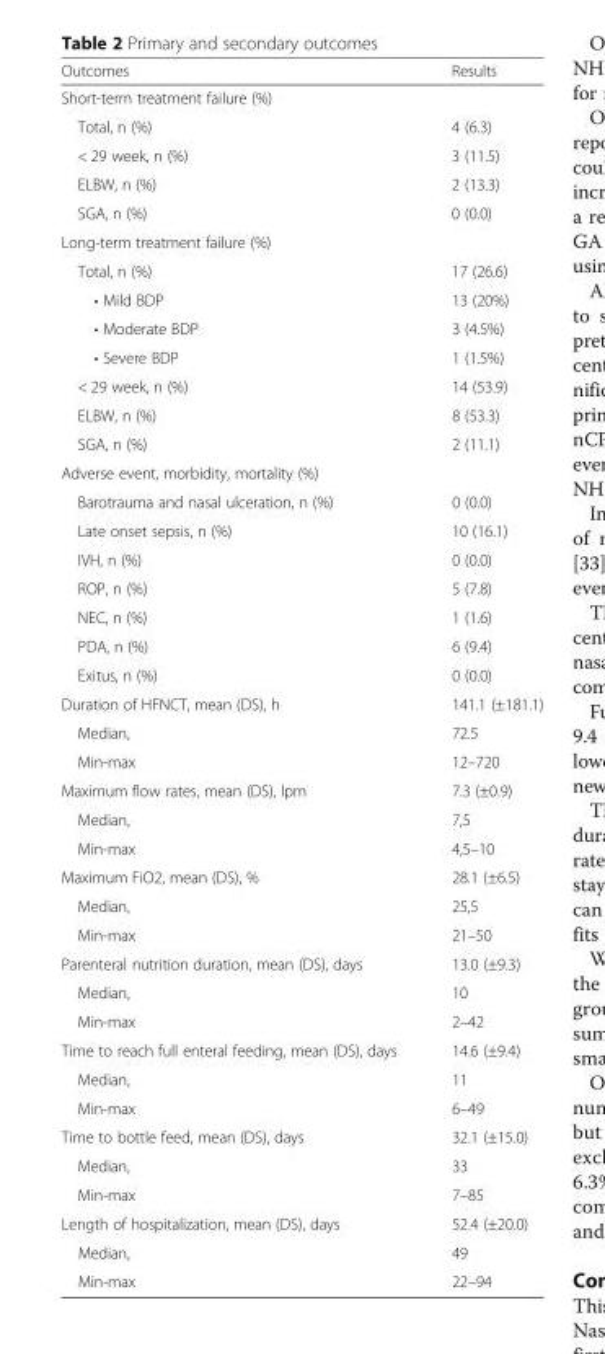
<table><thead><tr><td>Outcomes</td><td>Results</td></tr></thead><tbody><tr><td colspan="2">Short-term treatment failure (%)</td></tr><tr><td>Total, n (%)</td><td>4 (6.3)</td></tr><tr><td>&lt; 29 week, n (%)</td><td>3 (11.5)</td></tr><tr><td>ELBW, n (%)</td><td>2 (13.3)</td></tr><tr><td>SGA, n (%)</td><td>0 (0.0)</td></tr><tr><td colspan="2">Long-term treatment failure (%)</td></tr><tr><td>Total, n (%)</td><td>17 (26.6)</td></tr><tr><td>• Mild BDP</td><td>13 (20%)</td></tr><tr><td>• Moderate BDP</td><td>3 (4.5%)</td></tr><tr><td>• Severe BDP</td><td>1 (1.5%)</td></tr><tr><td>&lt; 29 week, n (%)</td><td>14 (53.9)</td></tr><tr><td>ELBW, n (%)</td><td>8 (53.3)</td></tr><tr><td>SGA, n (%)</td><td>2 (11.1)</td></tr><tr><td colspan="2">Adverse event, morbidity, mortality (%)</td></tr><tr><td>Barotrauma and nasal ulceration, n (%)</td><td>0 (0.0)</td></tr><tr><td>Late onset sepsis, n (%)</td><td>10 (16.1)</td></tr><tr><td>IVH, n (%)</td><td>0 (0.0)</td></tr><tr><td>ROP, n (%)</td><td>5 (7.8)</td></tr><tr><td>NEC, n (%)</td><td>1 (1.6)</td></tr><tr><td>PDA, n (%)</td><td>6 (9.4)</td></tr><tr><td>Exitus, n (%)</td><td>0 (0.0)</td></tr><tr><td>Duration of HFNCT, mean (DS), h</td><td>141.1 (±181.1)</td></tr><tr><td>Median,</td><td>72.5</td></tr><tr><td>Min-max</td><td>12–720</td></tr><tr><td>Maximum flow rates, mean (DS), lpm</td><td>7.3 (±0.9)</td></tr><tr><td>Median,</td><td>7,5</td></tr><tr><td>Min-max</td><td>4,5–10</td></tr><tr><td>Maximum FiO2, mean (DS), %</td><td>28.1 (±6.5)</td></tr><tr><td>Median,</td><td>25,5</td></tr><tr><td>Min-max</td><td>21–50</td></tr><tr><td>Parenteral nutrition duration, mean (DS), days</td><td>13.0 (±9.3)</td></tr><tr><td>Median,</td><td>10</td></tr><tr><td>Min-max</td><td>2–42</td></tr><tr><td>Time to reach full enteral feeding, mean (DS), days</td><td>14.6 (±9.4)</td></tr><tr><td>Median,</td><td>11</td></tr><tr><td>Min-max</td><td>6–49</td></tr><tr><td>Time to bottle feed, mean (DS), days</td><td>32.1 (±15.0)</td></tr><tr><td>Median,</td><td>33</td></tr><tr><td>Min-max</td><td>7–85</td></tr><tr><td>Length of hospitalization, mean (DS), days</td><td>52.4 (±20.0)</td></tr><tr><td>Median,</td><td>49</td></tr><tr><td>Min-max</td><td>22–94</td></tr></tbody></table>